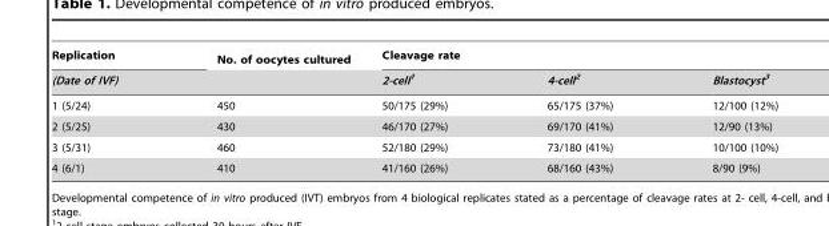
<table><thead><tr><td rowspan="2">Replication (Date of IVF)</td><td rowspan="2">No. of oocytes cultured</td><td colspan="3">Cleavage rate</td></tr><tr><td>2-cell1</td><td>4-cell2</td><td>Blastocyst3</td></tr></thead><tbody><tr><td>1 (5/24)</td><td>450</td><td>50/175 (29%)</td><td>65/175 (37%)</td><td>12/100 (12%)</td></tr><tr><td>2 (5/25)</td><td>430</td><td>46/170 (27%)</td><td>69/170 (41%)</td><td>12/90 (13%)</td></tr><tr><td>3 (5/31)</td><td>460</td><td>52/180 (29%)</td><td>73/180 (41%)</td><td>10/100 (10%)</td></tr><tr><td>4 (6/1)</td><td>410</td><td>41/160 (26%)</td><td>68/160 (43%)</td><td>8/90 (9%)</td></tr></tbody></table>